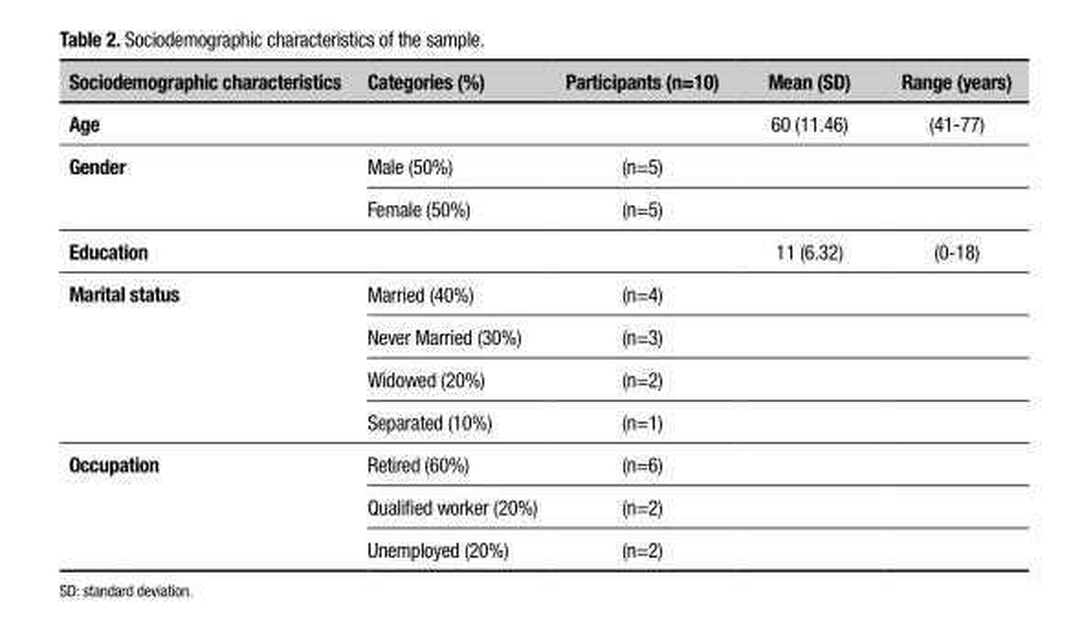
<table><thead><tr><td>Sociodemographic characteristics</td><td>Categories (%)</td><td>Participants (n=10)</td><td>Mean (SD)</td><td>Range (years)</td></tr></thead><tbody><tr><td>Age</td><td></td><td></td><td>60 (11.46)</td><td>(41-77)</td></tr><tr><td rowspan="2">Gender</td><td>Male (50%)</td><td>(n=5)</td><td></td><td></td></tr><tr><td>Female (50%)</td><td>(n=5)</td><td></td><td></td></tr><tr><td>Education</td><td></td><td></td><td>11 (6.32)</td><td>(0-18)</td></tr><tr><td rowspan="4">Marital status</td><td>Married (40%)</td><td>(n=4)</td><td></td><td></td></tr><tr><td>Never Married (30%)</td><td>(n=3)</td><td></td><td></td></tr><tr><td>Widowed (20%)</td><td>(n=2)</td><td></td><td></td></tr><tr><td>Separated (10%)</td><td>(n=1)</td><td></td><td></td></tr><tr><td rowspan="3">Occupation</td><td>Retired (60%)</td><td>(n=6)</td><td></td><td></td></tr><tr><td>Qualified worker (20%)</td><td>(n=2)</td><td></td><td></td></tr><tr><td>Unemployed (20%)</td><td>(n=2)</td><td></td><td></td></tr></tbody></table>